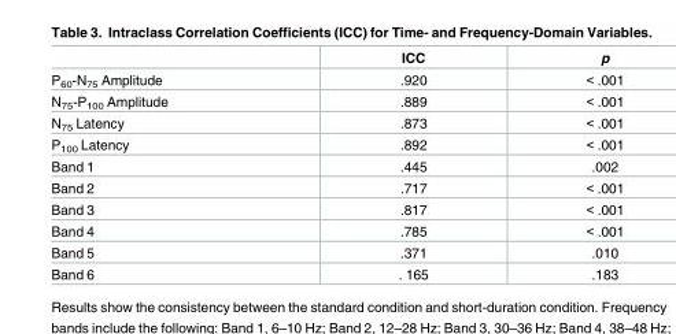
<table><thead><tr><td></td><td>ICC</td><td>p</td></tr></thead><tbody><tr><td>P<sub>60</sub>-N<sub>75</sub> Amplitude</td><td>.920</td><td>&lt; .001</td></tr><tr><td>N<sub>75</sub>-P<sub>100</sub> Amplitude</td><td>.889</td><td>&lt; .001</td></tr><tr><td>N<sub>75</sub> Latency</td><td>.873</td><td>&lt; .001</td></tr><tr><td>P<sub>100</sub> Latency</td><td>.892</td><td>&lt; .001</td></tr><tr><td>Band 1</td><td>.445</td><td>.002</td></tr><tr><td>Band 2</td><td>.717</td><td>&lt; .001</td></tr><tr><td>Band 3</td><td>.817</td><td>&lt; .001</td></tr><tr><td>Band 4</td><td>.785</td><td>&lt; .001</td></tr><tr><td>Band 5</td><td>.371</td><td>.010</td></tr><tr><td>Band 6</td><td>. 165</td><td>.183</td></tr></tbody></table>